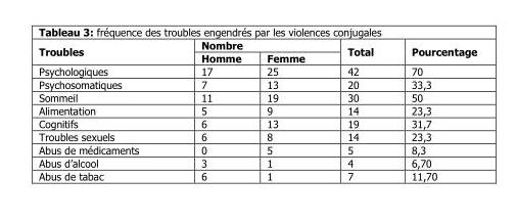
<table><thead><tr><td rowspan="2">Troubles</td><td colspan="2">Nombre</td><td rowspan="2">Total</td><td rowspan="2">Pourcentage</td></tr><tr><td>Homme</td><td>Femme</td></tr></thead><tbody><tr><td>Psychologiques</td><td>17</td><td>25</td><td>42</td><td>70</td></tr><tr><td>Psychosomatiques</td><td>7</td><td>13</td><td>20</td><td>33,3</td></tr><tr><td>Sommeil</td><td>11</td><td>19</td><td>30</td><td>50</td></tr><tr><td>Alimentation</td><td>5</td><td>9</td><td>14</td><td>23,3</td></tr><tr><td>Cognitifs</td><td>6</td><td>13</td><td>19</td><td>31,7</td></tr><tr><td>Troubles sexuels</td><td>6</td><td>8</td><td>14</td><td>23,3</td></tr><tr><td>Abus de médicaments</td><td>0</td><td>5</td><td>5</td><td>8,3</td></tr><tr><td>Abus d’alcool</td><td>3</td><td>1</td><td>4</td><td>6,70</td></tr><tr><td>Abus de tabac</td><td>6</td><td>1</td><td>7</td><td>11,70</td></tr></tbody></table>